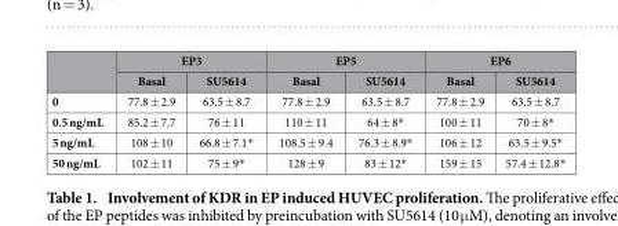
<table><thead><tr><td rowspan="2"></td><td colspan="2">EP3</td><td colspan="2">EP5</td><td colspan="2">EP6</td></tr><tr><td>Basal</td><td>SU5614</td><td>Basal</td><td>SU5614</td><td>Basal</td><td>SU5614</td></tr></thead><tbody><tr><td>0</td><td>77.8 ± 2.9</td><td>63.5 ± 8.7</td><td>77.8 ± 2.9</td><td>63.5 ± 8.7</td><td>77.8 ± 2.9</td><td>63.5 ± 8.7</td></tr><tr><td>0.5 ng/mL</td><td>85.2 ± 7.7</td><td>76 ± 11</td><td>110 ± 11</td><td>64 ± 8*</td><td>100 ± 11</td><td>70 ± 8*</td></tr><tr><td>5 ng/mL</td><td>108 ± 10</td><td>66.8 ± 7.1*</td><td>108.5 ± 9.4</td><td>76.3 ± 8.9*</td><td>106 ± 12</td><td>63.5 ± 9.5*</td></tr><tr><td>50 ng/mL</td><td>102 ± 11</td><td>75 ± 9*</td><td>128 ± 9</td><td>83 ± 12*</td><td>159 ± 15</td><td>57.4 ± 12.8*</td></tr></tbody></table>